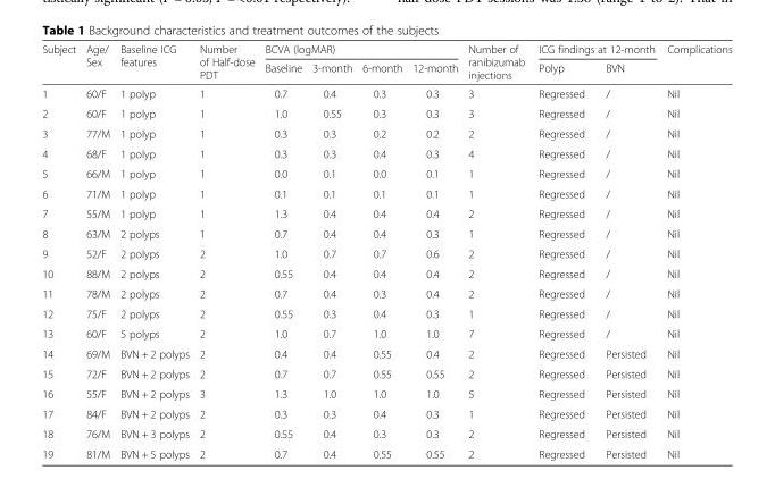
<table><thead><tr><td rowspan="2">Subject</td><td rowspan="2">Age/ Sex</td><td rowspan="2">Baseline ICG features</td><td rowspan="2">Number of Half-dose PDT</td><td colspan="4">BCVA (logMAR)</td><td rowspan="2">Number of ranibizumab injections</td><td colspan="2">ICG findings at 12-month</td><td rowspan="2">Complications</td></tr><tr><td>Baseline</td><td>3-month</td><td>6-month</td><td>12-month</td><td>Polyp</td><td>BVN</td></tr></thead><tbody><tr><td>1</td><td>60/F</td><td>1 polyp</td><td>1</td><td>0.7</td><td>0.4</td><td>0.3</td><td>0.3</td><td>3</td><td>Regressed</td><td>/</td><td>Nil</td></tr><tr><td>2</td><td>60/F</td><td>1 polyp</td><td>1</td><td>1.0</td><td>0.55</td><td>0.3</td><td>0.3</td><td>3</td><td>Regressed</td><td>/</td><td>Nil</td></tr><tr><td>3</td><td>77/M</td><td>1 polyp</td><td>1</td><td>0.3</td><td>0.3</td><td>0.2</td><td>0.2</td><td>2</td><td>Regressed</td><td>/</td><td>Nil</td></tr><tr><td>4</td><td>68/F</td><td>1 polyp</td><td>1</td><td>0.3</td><td>0.3</td><td>0.4</td><td>0.3</td><td>4</td><td>Regressed</td><td>/</td><td>Nil</td></tr><tr><td>5</td><td>66/M</td><td>1 polyp</td><td>1</td><td>0.0</td><td>0.1</td><td>0.0</td><td>0.1</td><td>1</td><td>Regressed</td><td>/</td><td>Nil</td></tr><tr><td>6</td><td>71/M</td><td>1 polyp</td><td>1</td><td>0.1</td><td>0.1</td><td>0.1</td><td>0.1</td><td>1</td><td>Regressed</td><td>/</td><td>Nil</td></tr><tr><td>7</td><td>55/M</td><td>1 polyp</td><td>1</td><td>1.3</td><td>0.4</td><td>0.4</td><td>0.4</td><td>2</td><td>Regressed</td><td>/</td><td>Nil</td></tr><tr><td>8</td><td>63/M</td><td>2 polyps</td><td>1</td><td>0.7</td><td>0.4</td><td>0.4</td><td>0.3</td><td>1</td><td>Regressed</td><td>/</td><td>Nil</td></tr><tr><td>9</td><td>52/F</td><td>2 polyps</td><td>2</td><td>1.0</td><td>0.7</td><td>0.7</td><td>0.6</td><td>2</td><td>Regressed</td><td>/</td><td>Nil</td></tr><tr><td>10</td><td>88/M</td><td>2 polyps</td><td>2</td><td>0.55</td><td>0.4</td><td>0.4</td><td>0.4</td><td>2</td><td>Regressed</td><td>/</td><td>Nil</td></tr><tr><td>11</td><td>78/M</td><td>2 polyps</td><td>2</td><td>0.7</td><td>0.4</td><td>0.3</td><td>0.4</td><td>2</td><td>Regressed</td><td>/</td><td>Nil</td></tr><tr><td>12</td><td>75/F</td><td>2 polyps</td><td>2</td><td>0.55</td><td>0.3</td><td>0.4</td><td>0.3</td><td>1</td><td>Regressed</td><td>/</td><td>Nil</td></tr><tr><td>13</td><td>60/F</td><td>5 polyps</td><td>2</td><td>1.0</td><td>0.7</td><td>1.0</td><td>1.0</td><td>7</td><td>Regressed</td><td>/</td><td>Nil</td></tr><tr><td>14</td><td>69/M</td><td>BVN + 2 polyps</td><td>2</td><td>0.4</td><td>0.4</td><td>0.55</td><td>0.4</td><td>2</td><td>Regressed</td><td>Persisted</td><td>Nil</td></tr><tr><td>15</td><td>72/F</td><td>BVN + 2 polyps</td><td>2</td><td>0.7</td><td>0.7</td><td>0.55</td><td>0.55</td><td>2</td><td>Regressed</td><td>Persisted</td><td>Nil</td></tr><tr><td>16</td><td>55/F</td><td>BVN + 2 polyps</td><td>3</td><td>1.3</td><td>1.0</td><td>1.0</td><td>1.0</td><td>5</td><td>Regressed</td><td>Persisted</td><td>Nil</td></tr><tr><td>17</td><td>84/F</td><td>BVN + 2 polyps</td><td>2</td><td>0.3</td><td>0.3</td><td>0.4</td><td>0.3</td><td>1</td><td>Regressed</td><td>Persisted</td><td>Nil</td></tr><tr><td>18</td><td>76/M</td><td>BVN + 3 polyps</td><td>2</td><td>0.55</td><td>0.4</td><td>0.3</td><td>0.3</td><td>2</td><td>Regressed</td><td>Persisted</td><td>Nil</td></tr><tr><td>19</td><td>81/M</td><td>BVN + 5 polyps</td><td>2</td><td>0.7</td><td>0.4</td><td>0.55</td><td>0.55</td><td>2</td><td>Regressed</td><td>Persisted</td><td>Nil</td></tr></tbody></table>